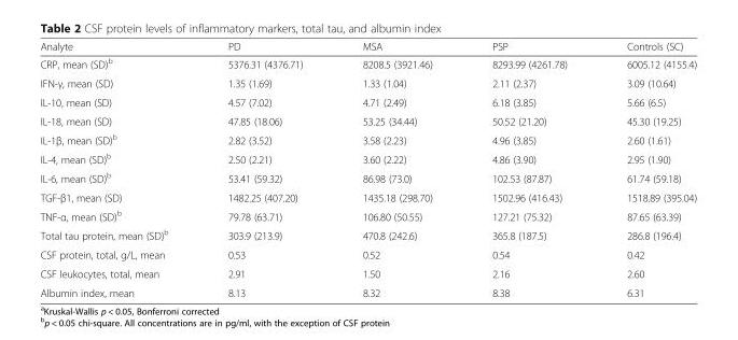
<table><thead><tr><td>Analyte</td><td>PD</td><td>MSA</td><td>PSP</td><td>Controls (SC)</td></tr></thead><tbody><tr><td>CRP, mean (SD)<sup>b</sup></td><td>5376.31 (4376.71)</td><td>8208.5 (3921.46)</td><td>8293.99 (4261.78)</td><td>6005.12 (4155.4)</td></tr><tr><td>IFN-γ, mean (SD)</td><td>1.35 (1.69)</td><td>1.33 (1.04)</td><td>2.11 (2.37)</td><td>3.09 (10.64)</td></tr><tr><td>IL-10, mean (SD)</td><td>4.57 (7.02)</td><td>4.71 (2.49)</td><td>6.18 (3.85)</td><td>5.66 (6.5)</td></tr><tr><td>IL-18, mean (SD)</td><td>47.85 (18.06)</td><td>53.25 (34.44)</td><td>50.52 (21.20)</td><td>45.30 (19.25)</td></tr><tr><td>IL-1β, mean (SD)<sup>b</sup></td><td>2.82 (3.52)</td><td>3.58 (2.23)</td><td>4.96 (3.85)</td><td>2.60 (1.61)</td></tr><tr><td>IL-4, mean (SD)<sup>b</sup></td><td>2.50 (2.21)</td><td>3.60 (2.22)</td><td>4.86 (3.90)</td><td>2.95 (1.90)</td></tr><tr><td>IL-6, mean (SD)<sup>b</sup></td><td>53.41 (59.32)</td><td>86.98 (73.0)</td><td>102.53 (87.87)</td><td>61.74 (59.18)</td></tr><tr><td>TGF-β1, mean (SD)</td><td>1482.25 (407.20)</td><td>1435.18 (298.70)</td><td>1502.96 (416.43)</td><td>1518.89 (395.04)</td></tr><tr><td>TNF-α, mean (SD)<sup>b</sup></td><td>79.78 (63.71)</td><td>106.80 (50.55)</td><td>127.21 (75.32)</td><td>87.65 (63.39)</td></tr><tr><td>Total tau protein, mean (SD)<sup>b</sup></td><td>303.9 (213.9)</td><td>470.8 (242.6)</td><td>365.8 (187.5)</td><td>286.8 (196.4)</td></tr><tr><td>CSF protein, total, g/L, mean</td><td>0.53</td><td>0.52</td><td>0.54</td><td>0.42</td></tr><tr><td>CSF leukocytes, total, mean</td><td>2.91</td><td>1.50</td><td>2.16</td><td>2.60</td></tr><tr><td>Albumin index, mean</td><td>8.13</td><td>8.32</td><td>8.38</td><td>6.31</td></tr></tbody></table>